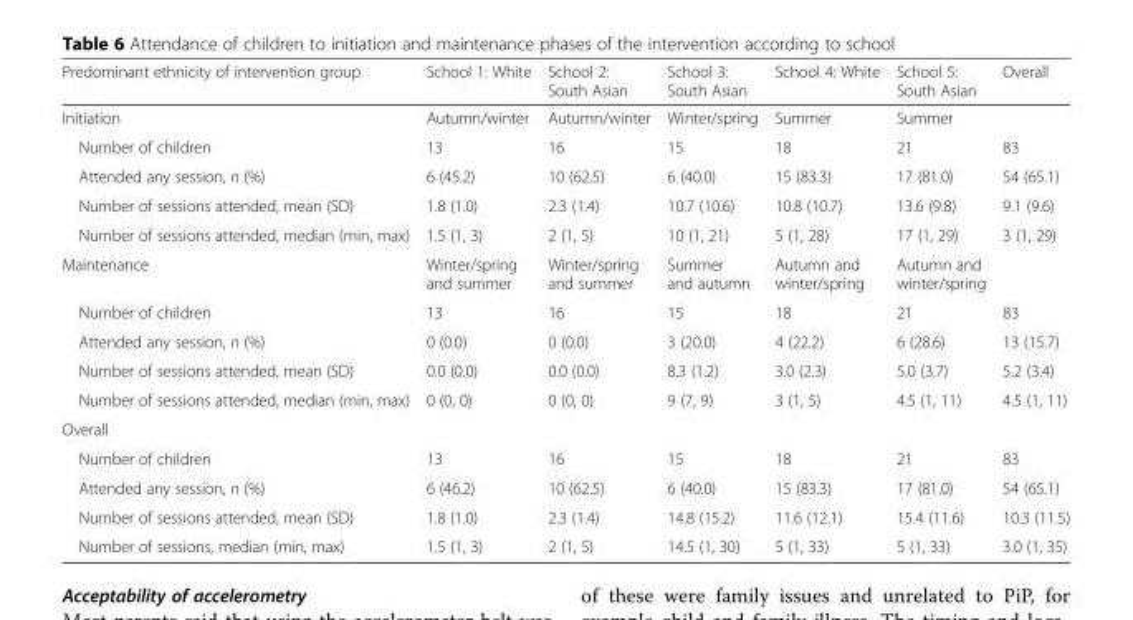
<table><thead><tr><td>Predominant ethnicity of intervention group</td><td>School 1: White</td><td>School 2: South Asian</td><td>School 3: South Asian</td><td>School 4: White</td><td>School 5: South Asian</td><td>Overall</td></tr></thead><tbody><tr><td>Initiation</td><td>Autumn/winter</td><td>Autumn/winter</td><td>Winter/spring</td><td>Summer</td><td>Summer</td><td></td></tr><tr><td>Number of children</td><td>13</td><td>16</td><td>15</td><td>18</td><td>21</td><td>83</td></tr><tr><td>Attended any session, n (%)</td><td>6 (45.2)</td><td>10 (62.5)</td><td>6 (40.0)</td><td>15 (83.3)</td><td>17 (81.0)</td><td>54 (65.1)</td></tr><tr><td>Number of sessions attended, mean (SD)</td><td>1.8 (1.0)</td><td>2.3 (1.4)</td><td>10.7 (10.6)</td><td>10.8 (10.7)</td><td>13.6 (9.8)</td><td>9.1 (9.6)</td></tr><tr><td>Number of sessions attended, median (min, max)</td><td>1.5 (1, 3)</td><td>2 (1, 5)</td><td>10 (1, 21)</td><td>5 (1, 28)</td><td>17 (1, 29)</td><td>3 (1, 29)</td></tr><tr><td>Maintenance</td><td>Winter/spring and summer</td><td>Winter/spring and summer</td><td>Summer and autumn</td><td>Autumn and winter/spring</td><td>Autumn and winter/spring</td><td></td></tr><tr><td>Number of children</td><td>13</td><td>16</td><td>15</td><td>18</td><td>21</td><td>83</td></tr><tr><td>Attended any session, n (%)</td><td>0 (0.0)</td><td>0 (0.0)</td><td>3 (20.0)</td><td>4 (22.2)</td><td>6 (28.6)</td><td>13 (15.7)</td></tr><tr><td>Number of sessions attended, mean (SD)</td><td>0.0 (0.0)</td><td>0.0 (0.0)</td><td>8.3 (1.2)</td><td>3.0 (2.3)</td><td>5.0 (3.7)</td><td>5.2 (3.4)</td></tr><tr><td>Number of sessions attended, median (min, max)</td><td>0 (0, 0)</td><td>0 (0, 0)</td><td>9 (7, 9)</td><td>3 (1, 5)</td><td>4.5 (1, 11)</td><td>4.5 (1, 11)</td></tr><tr><td colspan="7">Overall</td></tr><tr><td>Number of children</td><td>13</td><td>16</td><td>15</td><td>18</td><td>21</td><td>83</td></tr><tr><td>Attended any session, n (%)</td><td>6 (46.2)</td><td>10 (62.5)</td><td>6 (40.0)</td><td>15 (83.3)</td><td>17 (81.0)</td><td>54 (65.1)</td></tr><tr><td>Number of sessions attended, mean (SD)</td><td>1.8 (1.0)</td><td>2.3 (1.4)</td><td>14.8 (15.2)</td><td>11.6 (12.1)</td><td>15.4 (11.6)</td><td>10.3 (11.5)</td></tr><tr><td>Number of sessions, median (min, max)</td><td>1.5 (1, 3)</td><td>2 (1, 5)</td><td>14.5 (1, 30)</td><td>5 (1, 33)</td><td>5 (1, 33)</td><td>3.0 (1, 35)</td></tr></tbody></table>